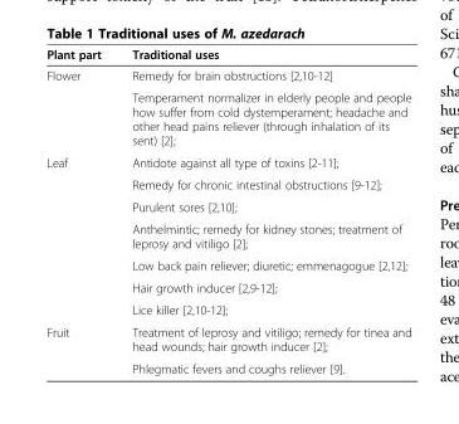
<table><thead><tr><td>Plant part</td><td>Traditional uses</td></tr></thead><tbody><tr><td rowspan="2">Flower</td><td>Remedy for brain obstructions [2,10-12]</td></tr><tr><td>Temperament normalizer in elderly people and people how suffer from cold dystemperament; headache and other head pains reliever (through inhalation of its sent) [2];</td></tr><tr><td rowspan="7">Leaf</td><td>Antidote against all type of toxins [2-11];</td></tr><tr><td>Remedy for chronic intestinal obstructions [9-12];</td></tr><tr><td>Purulent sores [2,10];</td></tr><tr><td>Anthelmintic; remedy for kidney stones; treatment of leprosy and vitiligo [2];</td></tr><tr><td>Low back pain reliever; diuretic; emmenagogue [2,12];</td></tr><tr><td>Hair growth inducer [2,9-12];</td></tr><tr><td>Lice killer [2,10-12];</td></tr><tr><td rowspan="2">Fruit</td><td>Treatment of leprosy and vitiligo; remedy for tinea and head wounds; hair growth inducer [2];</td></tr><tr><td>Phlegmatic fevers and coughs reliever [9].</td></tr></tbody></table>